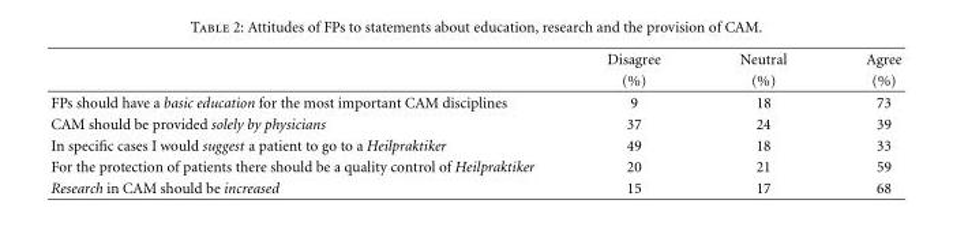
<table><thead><tr><td rowspan="2"></td><td rowspan="2">Disagree (%)</td><td rowspan="2">Neutral (%)</td><td rowspan="2">Agree (%)</td></tr><tr></tr></thead><tbody><tr><td>FPs should have a basic education for the most important CAM disciplines</td><td>9</td><td>18</td><td>73</td></tr><tr><td>CAM should be provided solely by physicians</td><td>37</td><td>24</td><td>39</td></tr><tr><td>In specific cases I would suggest a patient to go to a Heilpraktiker</td><td>49</td><td>18</td><td>33</td></tr><tr><td>For the protection of patients there should be a quality control of Heilpraktiker</td><td>20</td><td>21</td><td>59</td></tr><tr><td>Research in CAM should be increased</td><td>15</td><td>17</td><td>68</td></tr></tbody></table>